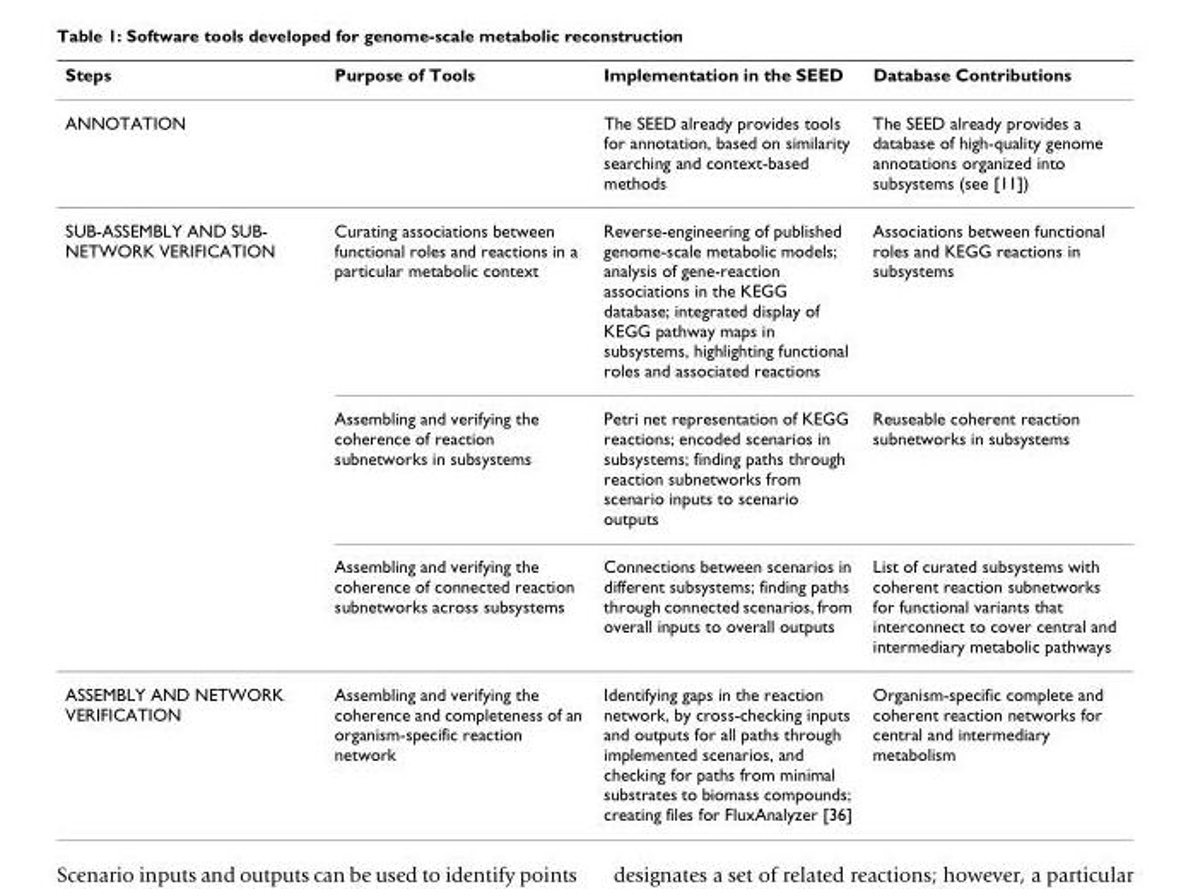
<table><thead><tr><td>Steps</td><td>Purpose of Tools</td><td>Implementation in the SEED</td><td>Database Contributions</td></tr></thead><tbody><tr><td>ANNOTATION</td><td></td><td>The SEED already provides tools for annotation, based on similarity searching and context-based methods</td><td>The SEED already provides a database of high-quality genome annotations organized into subsystems (see [11])</td></tr><tr><td rowspan="3">SUB-ASSEMBLY AND SUB- NETWORK VERIFICATION</td><td>Curating associations between functional roles and reactions in a particular metabolic context</td><td>Reverse-engineering of published genome-scale metabolic models; analysis of gene-reaction associations in the KEGG database; integrated display of KEGG pathway maps in subsystems, highlighting functional roles and associated reactions</td><td>Associations between functional roles and KEGG reactions in subsystems</td></tr><tr><td>Assembling and verifying the coherence of reaction subnetworks in subsystems</td><td>Petri net representation of KEGG reactions; encoded scenarios in subsystems; finding paths through reaction subnetworks from scenario inputs to scenario outputs</td><td>Reuseable coherent reaction subnetworks in subsystems</td></tr><tr><td>Assembling and verifying the coherence of connected reaction subnetworks across subsystems</td><td>Connections between scenarios in different subsystems; finding paths through connected scenarios, from overall inputs to overall outputs</td><td>List of curated subsystems with coherent reaction subnetworks for functional variants that interconnect to cover central and intermediary metabolic pathways</td></tr><tr><td>ASSEMBLY AND NETWORK VERIFICATION</td><td>Assembling and verifying the coherence and completeness of an organism-specific reaction network</td><td>Identifying gaps in the reaction network, by cross-checking inputs and outputs for all paths through implemented scenarios, and checking for paths from minimal substrates to biomass compounds; creating files for FluxAnalyzer [36]</td><td>Organism-specific complete and coherent reaction networks for central and intermediary metabolism</td></tr></tbody></table>